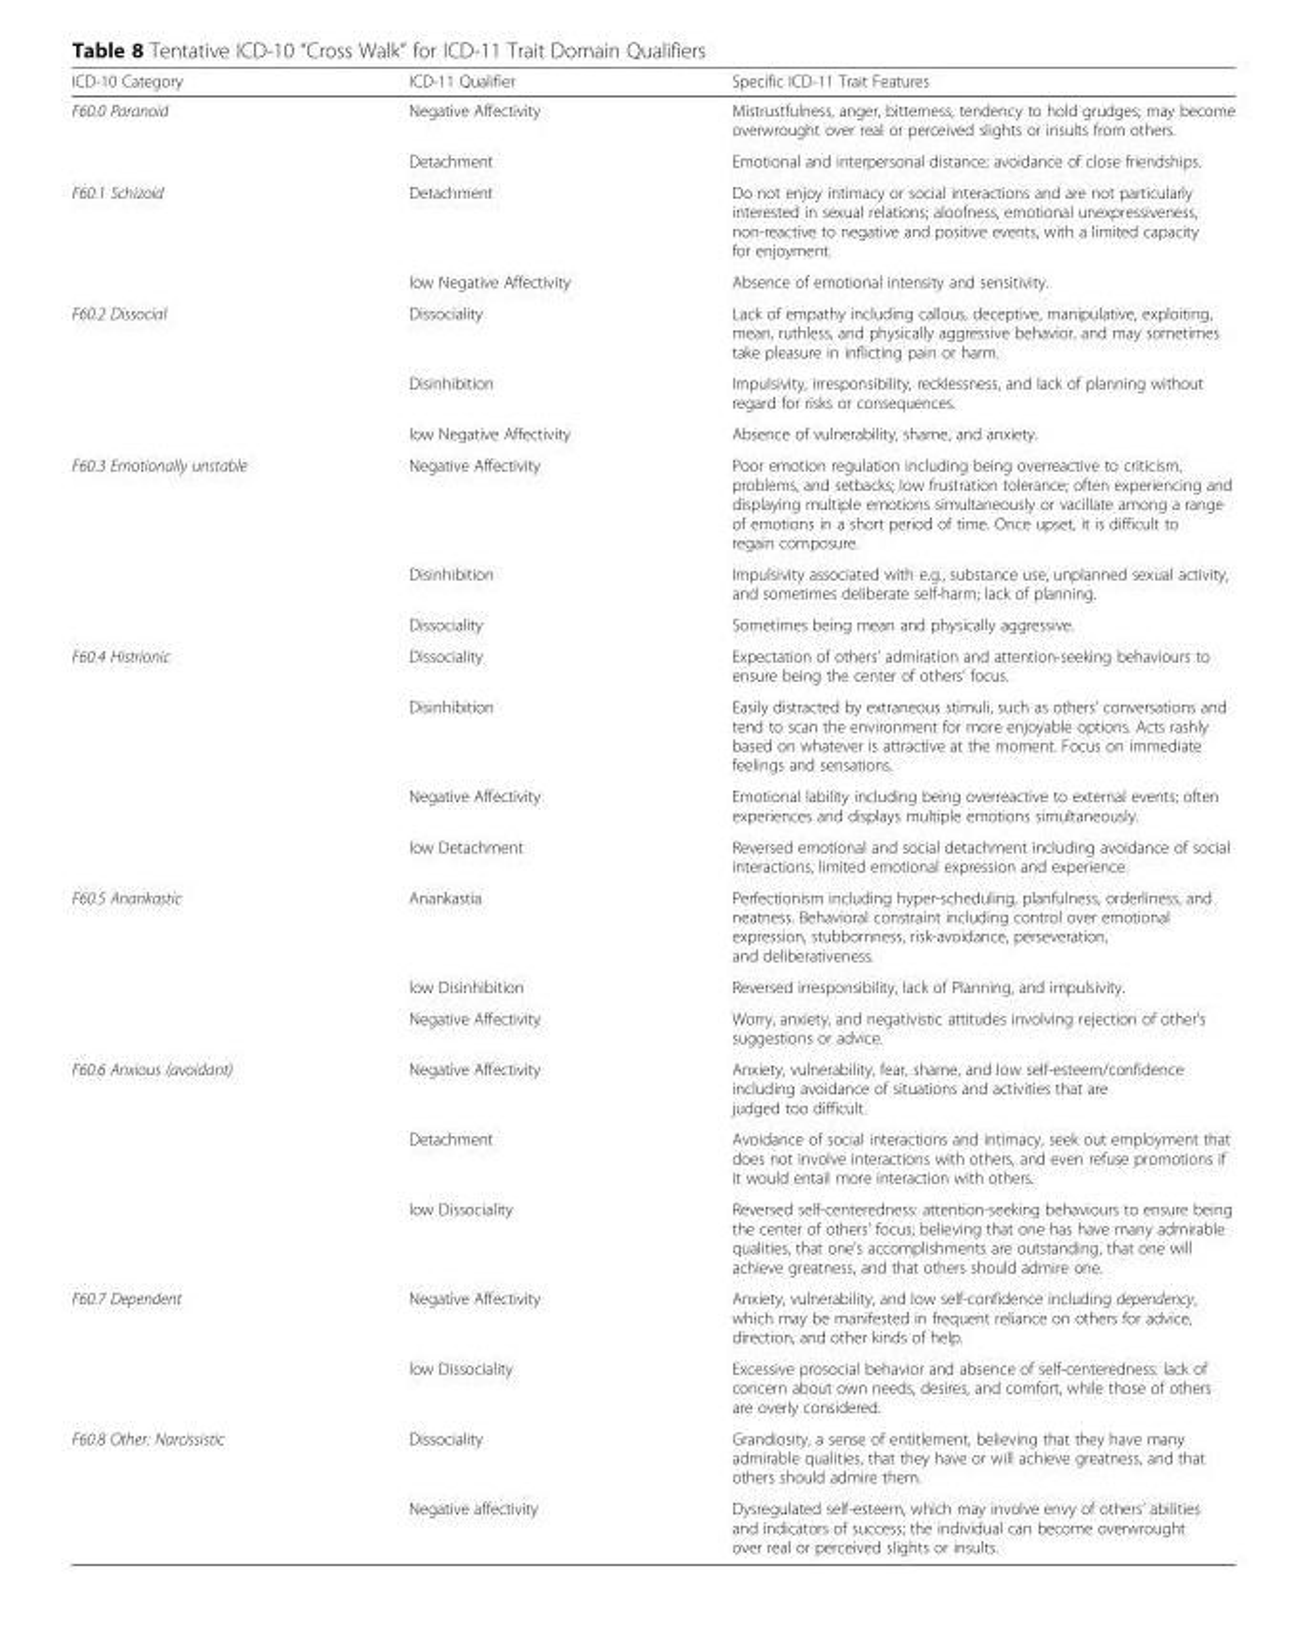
<table><thead><tr><td>ICD-10 Category</td><td>ICD-11 Qualifier</td><td>Specific ICD-11 Trait Features</td></tr></thead><tbody><tr><td rowspan="2">F60.0 Paranoid</td><td>Negative Affectivity</td><td>Mistrustfulness, anger, bitterness, tendency to hold grudges; may become overwrought over real or perceived slights or insults from others.</td></tr><tr><td>Detachment</td><td>Emotional and interpersonal distance; avoidance of close friendships.</td></tr><tr><td rowspan="2">F60.1 Schizoid</td><td>Detachment</td><td>Do not enjoy intimacy or social interactions and are not particularly interested in sexual relations; aloofness, emotional unexpressiveness, non-reactive to negative and positive events, with a limited capacity for enjoyment.</td></tr><tr><td>low Negative Affectivity</td><td>Absence of emotional intensity and sensitivity.</td></tr><tr><td rowspan="3">F60.2 Dissocial</td><td>Dissociality</td><td>Lack of empathy including callous, deceptive, manipulative, exploiting, mean, ruthless, and physically aggressive behavior, and may sometimes take pleasure in inflicting pain or harm.</td></tr><tr><td>Disinhibition</td><td>Impulsivity, irresponsibility, recklessness, and lack of planning without regard for risks or consequences.</td></tr><tr><td>low Negative Affectivity</td><td>Absence of vulnerability, shame, and anxiety.</td></tr><tr><td rowspan="3">F60.3 Emotionally unstable</td><td>Negative Affectivity</td><td>Poor emotion regulation including being overreactive to criticism, problems, and setbacks; low frustration tolerance; often experiencing and displaying multiple emotions simultaneously or vacillate among a range of emotions in a short period of time. Once upset, it is difficult to regain composure.</td></tr><tr><td>Disinhibition</td><td>Impulsivity associated with e.g., substance use, unplanned sexual activity, and sometimes deliberate self-harm; lack of planning.</td></tr><tr><td>Dissociality</td><td>Sometimes being mean and physically aggressive.</td></tr><tr><td rowspan="4">F60.4 Histrionic</td><td>Dissociality</td><td>Expectation of others’ admiration and attention-seeking behaviours to ensure being the center of others’ focus.</td></tr><tr><td>Disinhibition</td><td>Easily distracted by extraneous stimuli, such as others’ conversations and tend to scan the environment for more enjoyable options. Acts rashly based on whatever is attractive at the moment. Focus on immediate feelings and sensations.</td></tr><tr><td>Negative Affectivity</td><td>Emotional lability including being overreactive to external events; often experiences and displays multiple emotions simultaneously.</td></tr><tr><td>low Detachment</td><td>Reversed emotional and social detachment including avoidance of social interactions, limited emotional expression and experience.</td></tr><tr><td rowspan="3">F60.5 Anankastic</td><td>Anankastia</td><td>Perfectionism including hyper-scheduling, planfulness, orderliness, and neatness. Behavioral constraint including control over emotional expression, stubbornness, risk-avoidance, perseveration, and deliberativeness.</td></tr><tr><td>low Disinhibition</td><td>Reversed irresponsibility, lack of Planning, and impulsivity.</td></tr><tr><td>Negative Affectivity</td><td>Worry, anxiety, and negativistic attitudes involving rejection of other’s suggestions or advice.</td></tr><tr><td rowspan="3">F60.6 Anxious (avoidant)</td><td>Negative Affectivity</td><td>Anxiety, vulnerability, fear, shame, and low self-esteem/confidence including avoidance of situations and activities that are judged too difficult.</td></tr><tr><td>Detachment</td><td>Avoidance of social interactions and intimacy, seek out employment that does not involve interactions with others, and even refuse promotions if it would entail more interaction with others.</td></tr><tr><td>low Dissociality</td><td>Reversed self-centeredness: attention-seeking behaviours to ensure being the center of others’ focus; believing that one has have many admirable qualities, that one’s accomplishments are outstanding, that one will achieve greatness, and that others should admire one.</td></tr><tr><td rowspan="2">F60.7 Dependent</td><td>Negative Affectivity</td><td>Anxiety, vulnerability, and low self-confidence including dependency, which may be manifested in frequent reliance on others for advice, direction, and other kinds of help.</td></tr><tr><td>low Dissociality</td><td>Excessive prosocial behavior and absence of self-centeredness: lack of concern about own needs, desires, and comfort, while those of others are overly considered.</td></tr><tr><td rowspan="2">F60.8 Other: Narcissistic</td><td>Dissociality</td><td>Grandiosity, a sense of entitlement, believing that they have many admirable qualities, that they have or will achieve greatness, and that others should admire them.</td></tr><tr><td>Negative affectivity</td><td>Dysregulated self-esteem, which may involve envy of others’ abilities and indicators of success; the individual can become overwrought over real or perceived slights or insults.</td></tr></tbody></table>